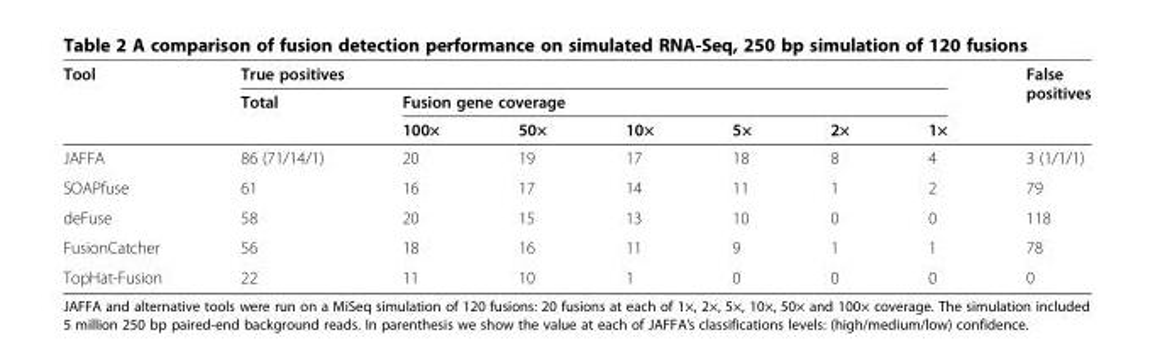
<table><thead><tr><td rowspan="3">Tool</td><td colspan="7">True positives</td><td rowspan="3">False positives</td></tr><tr><td rowspan="2">Total</td><td colspan="6">Fusion gene coverage</td></tr><tr><td>100×</td><td>50×</td><td>10×</td><td>5×</td><td>2×</td><td>1×</td></tr></thead><tbody><tr><td>JAFFA</td><td>86 (71/14/1)</td><td>20</td><td>19</td><td>17</td><td>18</td><td>8</td><td>4</td><td>3 (1/1/1)</td></tr><tr><td>SOAPfuse</td><td>61</td><td>16</td><td>17</td><td>14</td><td>11</td><td>1</td><td>2</td><td>79</td></tr><tr><td>deFuse</td><td>58</td><td>20</td><td>15</td><td>13</td><td>10</td><td>0</td><td>0</td><td>118</td></tr><tr><td>FusionCatcher</td><td>56</td><td>18</td><td>16</td><td>11</td><td>9</td><td>1</td><td>1</td><td>78</td></tr><tr><td>TopHat-Fusion</td><td>22</td><td>11</td><td>10</td><td>1</td><td>0</td><td>0</td><td>0</td><td>0</td></tr></tbody></table>